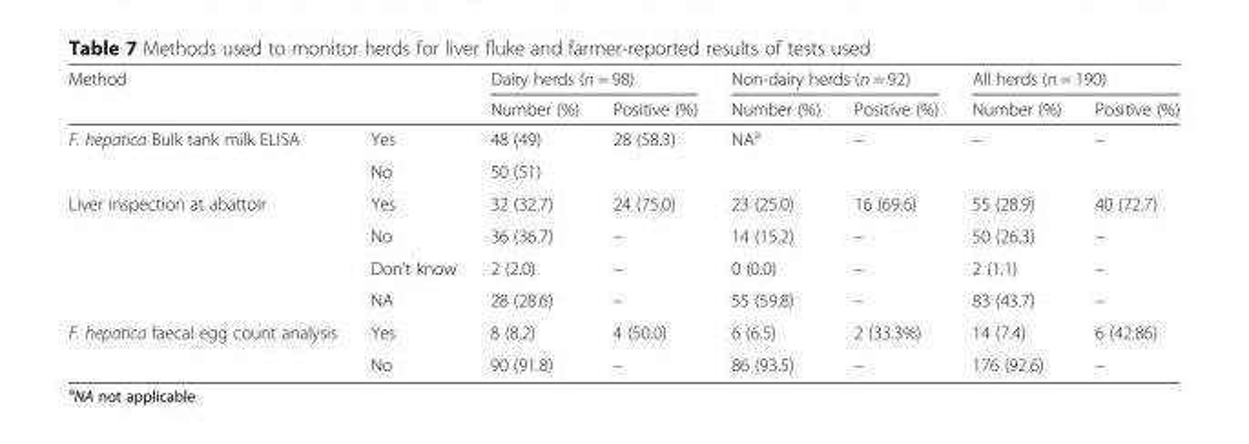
<table><thead><tr><td rowspan="2">Method</td><td rowspan="2"></td><td colspan="2">Dairy herds (n = 98)</td><td colspan="2">Non-dairy herds (n = 92)</td><td colspan="2">All herds (n = 190)</td></tr><tr><td>Number (%)</td><td>Positive (%)</td><td>Number (%)</td><td>Positive (%)</td><td>Number (%)</td><td>Positive (%)</td></tr></thead><tbody><tr><td rowspan="2">F. hepatica Bulk tank milk ELISA</td><td>Yes</td><td>48 (49)</td><td>28 (58.3)</td><td>NA<sup>a</sup></td><td>–</td><td>–</td><td>–</td></tr><tr><td>No</td><td>50 (51)</td><td></td><td></td><td></td><td></td><td></td></tr><tr><td rowspan="4">Liver inspection at abattoir</td><td>Yes</td><td>32 (32.7)</td><td>24 (75.0)</td><td>23 (25.0)</td><td>16 (69.6)</td><td>55 (28.9)</td><td>40 (72.7)</td></tr><tr><td>No</td><td>36 (36.7)</td><td>–</td><td>14 (15.2)</td><td>–</td><td>50 (26.3)</td><td>–</td></tr><tr><td>Don’t know</td><td>2 (2.0)</td><td>–</td><td>0 (0.0)</td><td>–</td><td>2 (1.1)</td><td>–</td></tr><tr><td>NA</td><td>28 (28.6)</td><td>–</td><td>55 (59.8)</td><td>–</td><td>83 (43.7)</td><td>–</td></tr><tr><td rowspan="2">F. hepatica faecal egg count analysis</td><td>Yes</td><td>8 (8.2)</td><td>4 (50.0)</td><td>6 (6.5)</td><td>2 (33.3%)</td><td>14 (7.4)</td><td>6 (42.86)</td></tr><tr><td>No</td><td>90 (91.8)</td><td>–</td><td>86 (93.5)</td><td>–</td><td>176 (92.6)</td><td>–</td></tr></tbody></table>